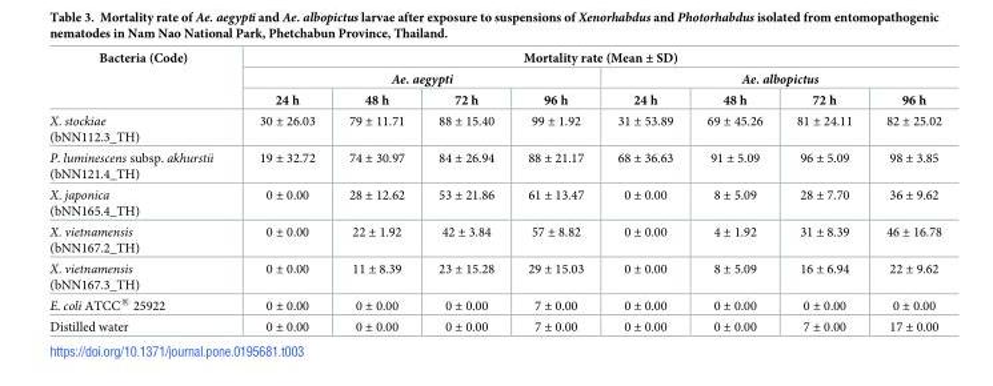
<table><thead><tr><td rowspan="3">Bacteria (Code)</td><td colspan="8">Mortality rate (Mean ± SD)</td></tr><tr><td colspan="4">Ae. aegypti</td><td colspan="4">Ae. albopictus</td></tr><tr><td>24 h</td><td>48 h</td><td>72 h</td><td>96 h</td><td>24 h</td><td>48 h</td><td>72 h</td><td>96 h</td></tr></thead><tbody><tr><td>X. stockiae (bNN112.3_TH)</td><td>30 ± 26.03</td><td>79 ± 11.71</td><td>88 ± 15.40</td><td>99 ± 1.92</td><td>31 ± 53.89</td><td>69 ± 45.26</td><td>81 ± 24.11</td><td>82 ± 25.02</td></tr><tr><td>P. luminescens subsp. akhurstii (bNN121.4_TH)</td><td>19 ± 32.72</td><td>74 ± 30.97</td><td>84 ± 26.94</td><td>88 ± 21.17</td><td>68 ± 36.63</td><td>91 ± 5.09</td><td>96 ± 5.09</td><td>98 ± 3.85</td></tr><tr><td>X. japonica (bNN165.4_TH)</td><td>0 ± 0.00</td><td>28 ± 12.62</td><td>53 ± 21.86</td><td>61 ± 13.47</td><td>0 ± 0.00</td><td>8 ± 5.09</td><td>28 ± 7.70</td><td>36 ± 9.62</td></tr><tr><td>X. vietnamensis (bNN167.2_TH)</td><td>0 ± 0.00</td><td>22 ± 1.92</td><td>42 ± 3.84</td><td>57 ± 8.82</td><td>0 ± 0.00</td><td>4 ± 1.92</td><td>31 ± 8.39</td><td>46 ± 16.78</td></tr><tr><td>X. vietnamensis (bNN167.3_TH)</td><td>0 ± 0.00</td><td>11 ± 8.39</td><td>23 ± 15.28</td><td>29 ± 15.03</td><td>0 ± 0.00</td><td>8 ± 5.09</td><td>16 ± 6.94</td><td>22 ± 9.62</td></tr><tr><td>E. coli ATCC<sup>®</sup> 25922</td><td>0 ± 0.00</td><td>0 ± 0.00</td><td>0 ± 0.00</td><td>7 ± 0.00</td><td>0 ± 0.00</td><td>0 ± 0.00</td><td>0 ± 0.00</td><td>0 ± 0.00</td></tr><tr><td>Distilled water</td><td>0 ± 0.00</td><td>0 ± 0.00</td><td>0 ± 0.00</td><td>7 ± 0.00</td><td>0 ± 0.00</td><td>0 ± 0.00</td><td>7 ± 0.00</td><td>17 ± 0.00</td></tr></tbody></table>